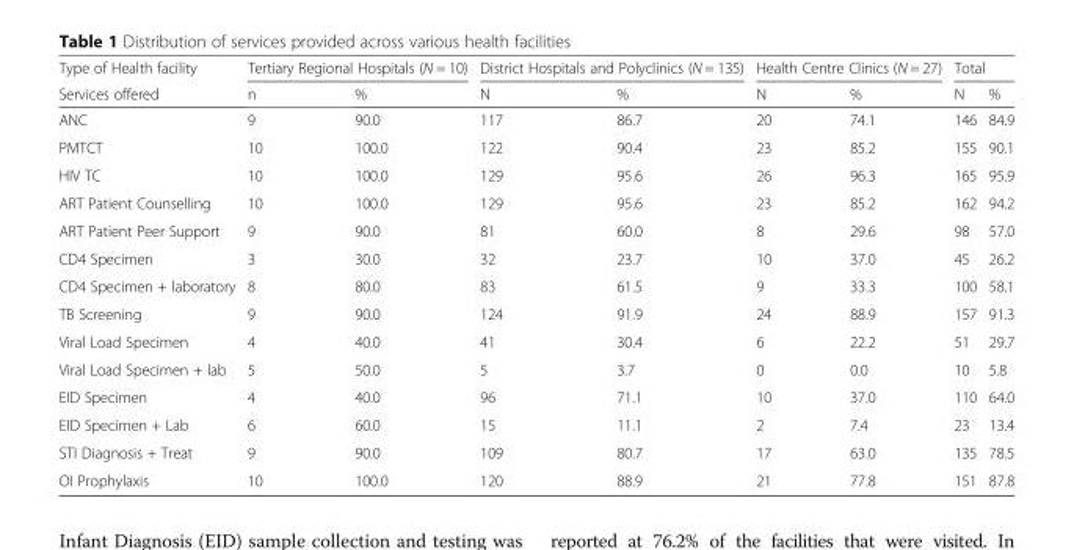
<table><thead><tr><td rowspan="2">Type of Health facility Services offered</td><td colspan="2">Tertiary Regional Hospitals (N = 10)</td><td colspan="2">District Hospitals and Polyclinics (N = 135)</td><td colspan="2">Health Centre Clinics (N = 27)</td><td colspan="2">Total</td></tr><tr><td>n</td><td>%</td><td>N</td><td>%</td><td>N</td><td>%</td><td>N</td><td>%</td></tr></thead><tbody><tr><td>ANC</td><td>9</td><td>90.0</td><td>117</td><td>86.7</td><td>20</td><td>74.1</td><td>146</td><td>84.9</td></tr><tr><td>PMTCT</td><td>10</td><td>100.0</td><td>122</td><td>90.4</td><td>23</td><td>85.2</td><td>155</td><td>90.1</td></tr><tr><td>HIV TC</td><td>10</td><td>100.0</td><td>129</td><td>95.6</td><td>26</td><td>96.3</td><td>165</td><td>95.9</td></tr><tr><td>ART Patient Counselling</td><td>10</td><td>100.0</td><td>129</td><td>95.6</td><td>23</td><td>85.2</td><td>162</td><td>94.2</td></tr><tr><td>ART Patient Peer Support</td><td>9</td><td>90.0</td><td>81</td><td>60.0</td><td>8</td><td>29.6</td><td>98</td><td>57.0</td></tr><tr><td>CD4 Specimen</td><td>3</td><td>30.0</td><td>32</td><td>23.7</td><td>10</td><td>37.0</td><td>45</td><td>26.2</td></tr><tr><td>CD4 Specimen + laboratory</td><td>8</td><td>80.0</td><td>83</td><td>61.5</td><td>9</td><td>33.3</td><td>100</td><td>58.1</td></tr><tr><td>TB Screening</td><td>9</td><td>90.0</td><td>124</td><td>91.9</td><td>24</td><td>88.9</td><td>157</td><td>91.3</td></tr><tr><td>Viral Load Specimen</td><td>4</td><td>40.0</td><td>41</td><td>30.4</td><td>6</td><td>22.2</td><td>51</td><td>29.7</td></tr><tr><td>Viral Load Specimen + lab</td><td>5</td><td>50.0</td><td>5</td><td>3.7</td><td>0</td><td>0.0</td><td>10</td><td>5.8</td></tr><tr><td>EID Specimen</td><td>4</td><td>40.0</td><td>96</td><td>71.1</td><td>10</td><td>37.0</td><td>110</td><td>64.0</td></tr><tr><td>EID Specimen + Lab</td><td>6</td><td>60.0</td><td>15</td><td>11.1</td><td>2</td><td>7.4</td><td>23</td><td>13.4</td></tr><tr><td>STI Diagnosis + Treat</td><td>9</td><td>90.0</td><td>109</td><td>80.7</td><td>17</td><td>63.0</td><td>135</td><td>78.5</td></tr><tr><td>OI Prophylaxis</td><td>10</td><td>100.0</td><td>120</td><td>88.9</td><td>21</td><td>77.8</td><td>151</td><td>87.8</td></tr></tbody></table>